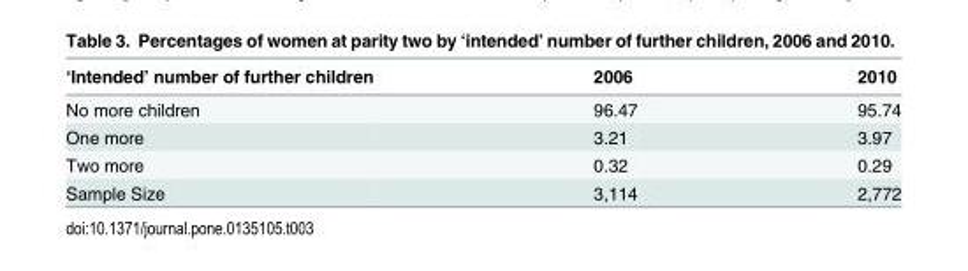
<table><thead><tr><td>‘Intended’ number of further children</td><td>2006</td><td>2010</td></tr></thead><tbody><tr><td>No more children</td><td>96.47</td><td>95.74</td></tr><tr><td>One more</td><td>3.21</td><td>3.97</td></tr><tr><td>Two more</td><td>0.32</td><td>0.29</td></tr><tr><td>Sample Size</td><td>3,114</td><td>2,772</td></tr></tbody></table>